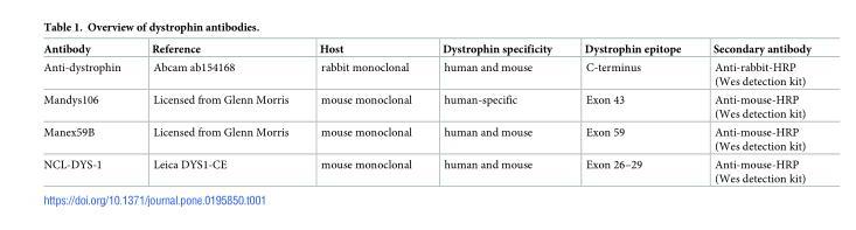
<table><thead><tr><td>Antibody</td><td>Reference</td><td>Host</td><td>Dystrophin specificity</td><td>Dystrophin epitope</td><td>Secondary antibody</td></tr></thead><tbody><tr><td>Anti-dystrophin</td><td>Abcam ab154168</td><td>rabbit monoclonal</td><td>human and mouse</td><td>C-terminus</td><td>Anti-rabbit-HRP (Wes detection kit)</td></tr><tr><td>Mandys106</td><td>Licensed from Glenn Morris</td><td>mouse monoclonal</td><td>human-specific</td><td>Exon 43</td><td>Anti-mouse-HRP (Wes detection kit)</td></tr><tr><td>Manex59B</td><td>Licensed from Glenn Morris</td><td>mouse monoclonal</td><td>human and mouse</td><td>Exon 59</td><td>Anti-mouse-HRP (Wes detection kit)</td></tr><tr><td>NCL-DYS-1</td><td>Leica DYS1-CE</td><td>mouse monoclonal</td><td>human and mouse</td><td>Exon 26–29</td><td>Anti-mouse-HRP (Wes detection kit)</td></tr></tbody></table>